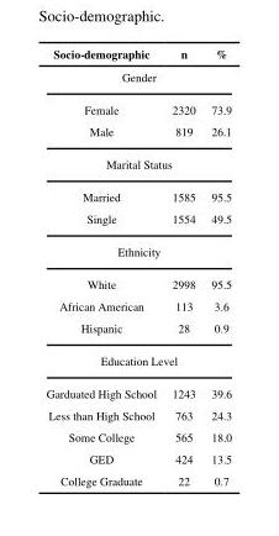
<table><thead><tr><td>Socio-demographic</td><td>n</td><td>%</td></tr></thead><tbody><tr><td colspan="3">Gender</td></tr><tr><td>Female</td><td>2320</td><td>73.9</td></tr><tr><td>Male</td><td>819</td><td>26.1</td></tr><tr><td colspan="3">Marital Status</td></tr><tr><td>Married</td><td>1585</td><td>95.5</td></tr><tr><td>Single</td><td>1554</td><td>49.5</td></tr><tr><td colspan="3">Ethnicity</td></tr><tr><td>White</td><td>2998</td><td>95.5</td></tr><tr><td>African American</td><td>113</td><td>3.6</td></tr><tr><td>Hispanic</td><td>28</td><td>0.9</td></tr><tr><td colspan="3">Education Level</td></tr><tr><td>Garduated High School</td><td>1243</td><td>39.6</td></tr><tr><td>Less than High School</td><td>763</td><td>24.3</td></tr><tr><td>Some College</td><td>565</td><td>18.0</td></tr><tr><td>GED</td><td>424</td><td>13.5</td></tr><tr><td>College Graduate</td><td>22</td><td>0.7</td></tr></tbody></table>